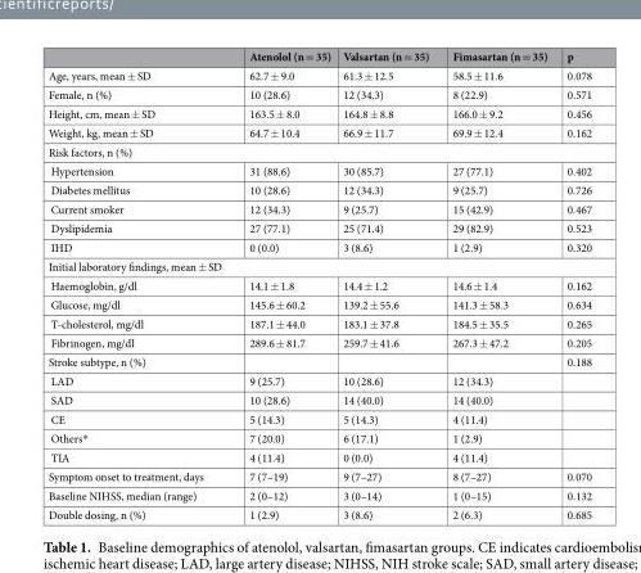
<table><thead><tr><td></td><td>Atenolol (n = 35)</td><td>Valsartan (n = 35)</td><td>Fimasartan (n = 35)</td><td>p</td></tr></thead><tbody><tr><td>Age, years, mean ± SD</td><td>62.7 ± 9.0</td><td>61.3 ± 12.5</td><td>58.5 ± 11.6</td><td>0.078</td></tr><tr><td>Female, n (%)</td><td>10 (28.6)</td><td>12 (34.3)</td><td>8 (22.9)</td><td>0.571</td></tr><tr><td>Height, cm, mean ± SD</td><td>163.5 ± 8.0</td><td>164.8 ± 8.8</td><td>166.0 ± 9.2</td><td>0.456</td></tr><tr><td>Weight, kg, mean ± SD</td><td>64.7 ± 10.4</td><td>66.9 ± 11.7</td><td>69.9 ± 12.4</td><td>0.162</td></tr><tr><td colspan="5">Risk factors, n (%)</td></tr><tr><td>Hypertension</td><td>31 (88.6)</td><td>30 (85.7)</td><td>27 (77.1)</td><td>0.402</td></tr><tr><td>Diabetes mellitus</td><td>10 (28.6)</td><td>12 (34.3)</td><td>9 (25.7)</td><td>0.726</td></tr><tr><td>Current smoker</td><td>12 (34.3)</td><td>9 (25.7)</td><td>15 (42.9)</td><td>0.467</td></tr><tr><td>Dyslipidemia</td><td>27 (77.1)</td><td>25 (71.4)</td><td>29 (82.9)</td><td>0.523</td></tr><tr><td>IHD</td><td>0 (0.0)</td><td>3 (8.6)</td><td>1 (2.9)</td><td>0.320</td></tr><tr><td colspan="5">Initial laboratory findings, mean ± SD</td></tr><tr><td>Haemoglobin, g/dl</td><td>14.1 ± 1.8</td><td>14.4 ± 1.2</td><td>14.6 ± 1.4</td><td>0.162</td></tr><tr><td>Glucose, mg/dl</td><td>145.6 ± 60.2</td><td>139.2 ± 55.6</td><td>141.3 ± 58.3</td><td>0.634</td></tr><tr><td>T-cholesterol, mg/dl</td><td>187.1 ± 44.0</td><td>183.1 ± 37.8</td><td>184.5 ± 35.5</td><td>0.265</td></tr><tr><td>Fibrinogen, mg/dl</td><td>289.6 ± 81.7</td><td>259.7 ± 41.6</td><td>267.3 ± 47.2</td><td>0.205</td></tr><tr><td>Stroke subtype, n (%)</td><td></td><td></td><td></td><td>0.188</td></tr><tr><td>LAD</td><td>9 (25.7)</td><td>10 (28.6)</td><td>12 (34.3)</td><td></td></tr><tr><td>SAD</td><td>10 (28.6)</td><td>14 (40.0)</td><td>14 (40.0)</td><td></td></tr><tr><td>CE</td><td>5 (14.3)</td><td>5 (14.3)</td><td>4 (11.4)</td><td></td></tr><tr><td>Others*</td><td>7 (20.0)</td><td>6 (17.1)</td><td>1 (2.9)</td><td></td></tr><tr><td>TIA</td><td>4 (11.4)</td><td>0 (0.0)</td><td>4 (11.4)</td><td></td></tr><tr><td>Symptom onset to treatment, days</td><td>7 (7–19)</td><td>9 (7–27)</td><td>8 (7–27)</td><td>0.070</td></tr><tr><td>Baseline NIHSS, median (range)</td><td>2 (0–12)</td><td>3 (0–14)</td><td>1 (0–15)</td><td>0.132</td></tr><tr><td>Double dosing, n (%)</td><td>1 (2.9)</td><td>3 (8.6)</td><td>2 (6.3)</td><td>0.685</td></tr></tbody></table>